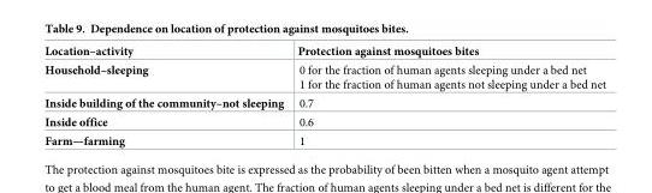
<table><thead><tr><td>Location–activity</td><td>Protection against mosquitoes bites</td></tr></thead><tbody><tr><td>Household–sleeping</td><td>0 for the fraction of human agents sleeping under a bed net 1 for the fraction of human agents not sleeping under a bed net</td></tr><tr><td>Inside building of the community–not sleeping</td><td>0.7</td></tr><tr><td>Inside office</td><td>0.6</td></tr><tr><td>Farm—farming</td><td>1</td></tr></tbody></table>